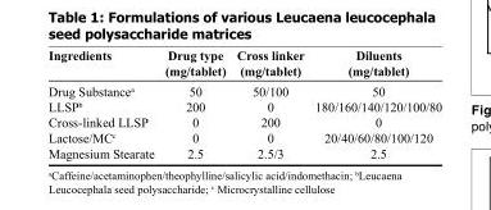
<table><thead><tr><td>Ingredients</td><td>Drug type (mg/tablet)</td><td>Cross linker (mg/tablet)</td><td>Diluents (mg/tablet)</td></tr></thead><tbody><tr><td>Drug Substance<sup>a</sup></td><td>50</td><td>50/100</td><td>50</td></tr><tr><td>LLSP<sup>b</sup></td><td>200</td><td>0</td><td>180/160/140/120/100/80</td></tr><tr><td>Cross-linked LLSP</td><td>0</td><td>200</td><td>0</td></tr><tr><td>Lactose/MC<sup>c</sup></td><td>0</td><td>0</td><td>20/40/60/80/100/120</td></tr><tr><td>Magnesium Stearate</td><td>2.5</td><td>2.5/3</td><td>2.5</td></tr></tbody></table>